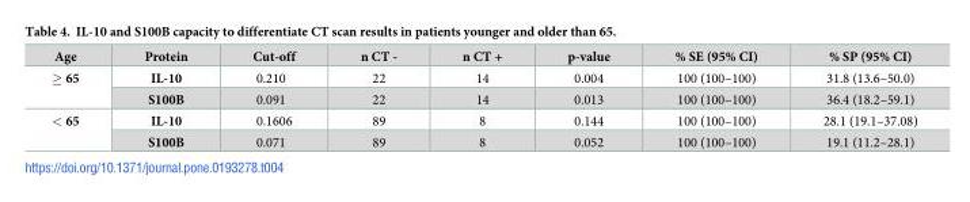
<table><thead><tr><td>Age</td><td>Protein</td><td>Cut-off</td><td>n CT -</td><td>n CT +</td><td>p-value</td><td>% SE (95% CI)</td><td>% SP (95% CI)</td></tr></thead><tbody><tr><td rowspan="2">≥ 65</td><td>IL-10</td><td>0.210</td><td>22</td><td>14</td><td>0.004</td><td>100 (100–100)</td><td>31.8 (13.6–50.0)</td></tr><tr><td>S100B</td><td>0.091</td><td>22</td><td>14</td><td>0.013</td><td>100 (100–100)</td><td>36.4 (18.2–59.1)</td></tr><tr><td rowspan="2">&lt; 65</td><td>IL-10</td><td>0.1606</td><td>89</td><td>8</td><td>0.144</td><td>100 (100–100)</td><td>28.1 (19.1–37.08)</td></tr><tr><td>S100B</td><td>0.071</td><td>89</td><td>8</td><td>0.052</td><td>100 (100–100)</td><td>19.1 (11.2–28.1)</td></tr></tbody></table>